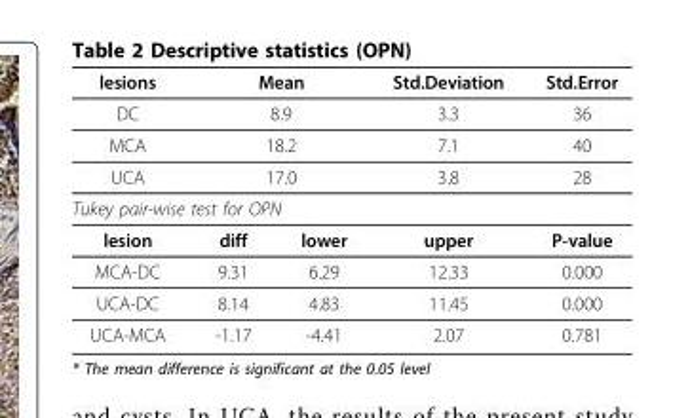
<table><thead><tr><td>lesions</td><td colspan="2">Mean</td><td>Std.Deviation</td><td>Std.Error</td></tr></thead><tbody><tr><td>DC</td><td colspan="2">8.9</td><td>3.3</td><td>36</td></tr><tr><td>MCA</td><td colspan="2">18.2</td><td>7.1</td><td>40</td></tr><tr><td>UCA</td><td colspan="2">17.0</td><td>3.8</td><td>28</td></tr><tr><td colspan="5">Tukey pair-wise test for OPN</td></tr><tr><td>lesion</td><td>diff</td><td>lower</td><td>upper</td><td>P-value</td></tr><tr><td>MCA-DC</td><td>9.31</td><td>6.29</td><td>12.33</td><td>0.000</td></tr><tr><td>UCA-DC</td><td>8.14</td><td>4.83</td><td>11.45</td><td>0.000</td></tr><tr><td>UCA-MCA</td><td>-1.17</td><td>-4.41</td><td>2.07</td><td>0.781</td></tr></tbody></table>